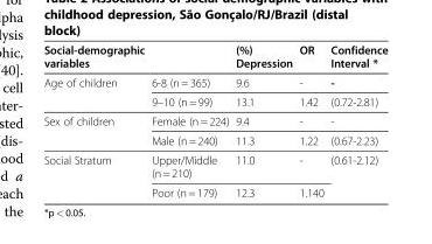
<table><thead><tr><td>Social-demographic variables</td><td></td><td>(%) Depression</td><td>OR</td><td>Confidence Interval *</td></tr></thead><tbody><tr><td rowspan="2">Age of children</td><td>6-8 (n = 365)</td><td>9.6</td><td>-</td><td>-</td></tr><tr><td>9–10 (n = 99)</td><td>13.1</td><td>1.42</td><td>(0.72-2.81)</td></tr><tr><td rowspan="2">Sex of children</td><td>Female (n = 224)</td><td>9.4</td><td>-</td><td>-</td></tr><tr><td>Male (n = 240)</td><td>11.3</td><td>1.22</td><td>(0.67-2.23)</td></tr><tr><td rowspan="2">Social Stratum</td><td>Upper/Middle (n = 210)</td><td>11.0</td><td>-</td><td rowspan="2">(0.61-2.12)</td></tr><tr><td>Poor (n = 179)</td><td>12.3</td><td>1.140</td></tr></tbody></table>